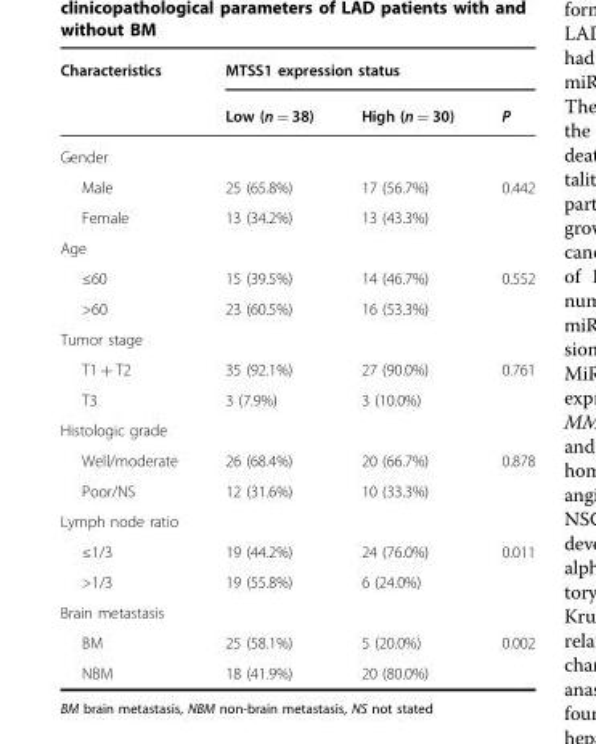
<table><thead><tr><td rowspan="2">Characteristics</td><td colspan="3">MTSS1 expression status</td></tr><tr><td>Low (n = 38)</td><td>High (n = 30)</td><td>P</td></tr></thead><tbody><tr><td colspan="4">Gender</td></tr><tr><td>Male</td><td>25 (65.8%)</td><td>17 (56.7%)</td><td>0.442</td></tr><tr><td>Female</td><td>13 (34.2%)</td><td>13 (43.3%)</td><td></td></tr><tr><td colspan="4">Age</td></tr><tr><td>≤60</td><td>15 (39.5%)</td><td>14 (46.7%)</td><td>0.552</td></tr><tr><td>&gt;60</td><td>23 (60.5%)</td><td>16 (53.3%)</td><td></td></tr><tr><td colspan="4">Tumor stage</td></tr><tr><td>T1 + T2</td><td>35 (92.1%)</td><td>27 (90.0%)</td><td>0.761</td></tr><tr><td>T3</td><td>3 (7.9%)</td><td>3 (10.0%)</td><td></td></tr><tr><td colspan="4">Histologic grade</td></tr><tr><td>Well/moderate</td><td>26 (68.4%)</td><td>20 (66.7%)</td><td>0.878</td></tr><tr><td>Poor/NS</td><td>12 (31.6%)</td><td>10 (33.3%)</td><td></td></tr><tr><td colspan="4">Lymph node ratio</td></tr><tr><td>≤1/3</td><td>19 (44.2%)</td><td>24 (76.0%)</td><td>0.011</td></tr><tr><td>&gt;1/3</td><td>19 (55.8%)</td><td>6 (24.0%)</td><td></td></tr><tr><td colspan="4">Brain metastasis</td></tr><tr><td>BM</td><td>25 (58.1%)</td><td>5 (20.0%)</td><td>0.002</td></tr><tr><td>NBM</td><td>18 (41.9%)</td><td>20 (80.0%)</td><td></td></tr></tbody></table>